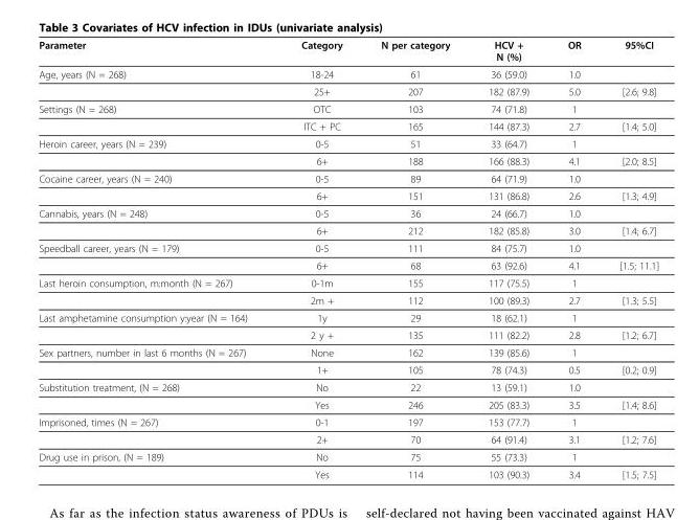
<table><thead><tr><td>Parameter</td><td>Category</td><td>N per category</td><td>HCV + N (%)</td><td>OR</td><td>95%CI</td></tr></thead><tbody><tr><td rowspan="2">Age, years (N = 268)</td><td>18-24</td><td>61</td><td>36 (59.0)</td><td>1.0</td><td></td></tr><tr><td>25+</td><td>207</td><td>182 (87.9)</td><td>5.0</td><td>[2.6; 9.8]</td></tr><tr><td rowspan="2">Settings (N = 268)</td><td>OTC</td><td>103</td><td>74 (71.8)</td><td>1</td><td></td></tr><tr><td>ITC + PC</td><td>165</td><td>144 (87.3)</td><td>2.7</td><td>[1.4; 5.0]</td></tr><tr><td rowspan="2">Heroin career, years (N = 239)</td><td>0-5</td><td>51</td><td>33 (64.7)</td><td>1</td><td></td></tr><tr><td>6+</td><td>188</td><td>166 (88.3)</td><td>4.1</td><td>[2.0; 8.5]</td></tr><tr><td rowspan="2">Cocaine career, years (N = 240)</td><td>0-5</td><td>89</td><td>64 (71.9)</td><td>1.0</td><td></td></tr><tr><td>6+</td><td>151</td><td>131 (86.8)</td><td>2.6</td><td>[1.3; 4.9]</td></tr><tr><td rowspan="2">Cannabis, years (N = 248)</td><td>0-5</td><td>36</td><td>24 (66.7)</td><td>1.0</td><td></td></tr><tr><td>6+</td><td>212</td><td>182 (85.8)</td><td>3.0</td><td>[1.4; 6.7]</td></tr><tr><td rowspan="2">Speedball career, years (N = 179)</td><td>0-5</td><td>111</td><td>84 (75.7)</td><td>1.0</td><td></td></tr><tr><td>6+</td><td>68</td><td>63 (92.6)</td><td>4.1</td><td>[1.5; 11.1]</td></tr><tr><td rowspan="2">Last heroin consumption, m:month (N = 267)</td><td>0-1m</td><td>155</td><td>117 (75.5)</td><td>1</td><td></td></tr><tr><td>2m +</td><td>112</td><td>100 (89.3)</td><td>2.7</td><td>[1.3; 5.5]</td></tr><tr><td rowspan="2">Last amphetamine consumption y:year (N = 164)</td><td>1y</td><td>29</td><td>18 (62.1)</td><td>1</td><td></td></tr><tr><td>2 y +</td><td>135</td><td>111 (82.2)</td><td>2.8</td><td>[1.2; 6.7]</td></tr><tr><td rowspan="2">Sex partners, number in last 6 months (N = 267)</td><td>None</td><td>162</td><td>139 (85.6)</td><td>1</td><td></td></tr><tr><td>1+</td><td>105</td><td>78 (74.3)</td><td>0.5</td><td>[0.2; 0.9]</td></tr><tr><td rowspan="2">Substitution treatment, (N = 268)</td><td>No</td><td>22</td><td>13 (59.1)</td><td>1.0</td><td></td></tr><tr><td>Yes</td><td>246</td><td>205 (83.3)</td><td>3.5</td><td>[1.4; 8.6]</td></tr><tr><td rowspan="2">Imprisoned, times (N = 267)</td><td>0-1</td><td>197</td><td>153 (77.7)</td><td>1</td><td></td></tr><tr><td>2+</td><td>70</td><td>64 (91.4)</td><td>3.1</td><td>[1.2; 7.6]</td></tr><tr><td rowspan="2">Drug use in prison, (N = 189)</td><td>No</td><td>75</td><td>55 (73.3)</td><td>1</td><td></td></tr><tr><td>Yes</td><td>114</td><td>103 (90.3)</td><td>3.4</td><td>[1.5; 7.5]</td></tr></tbody></table>